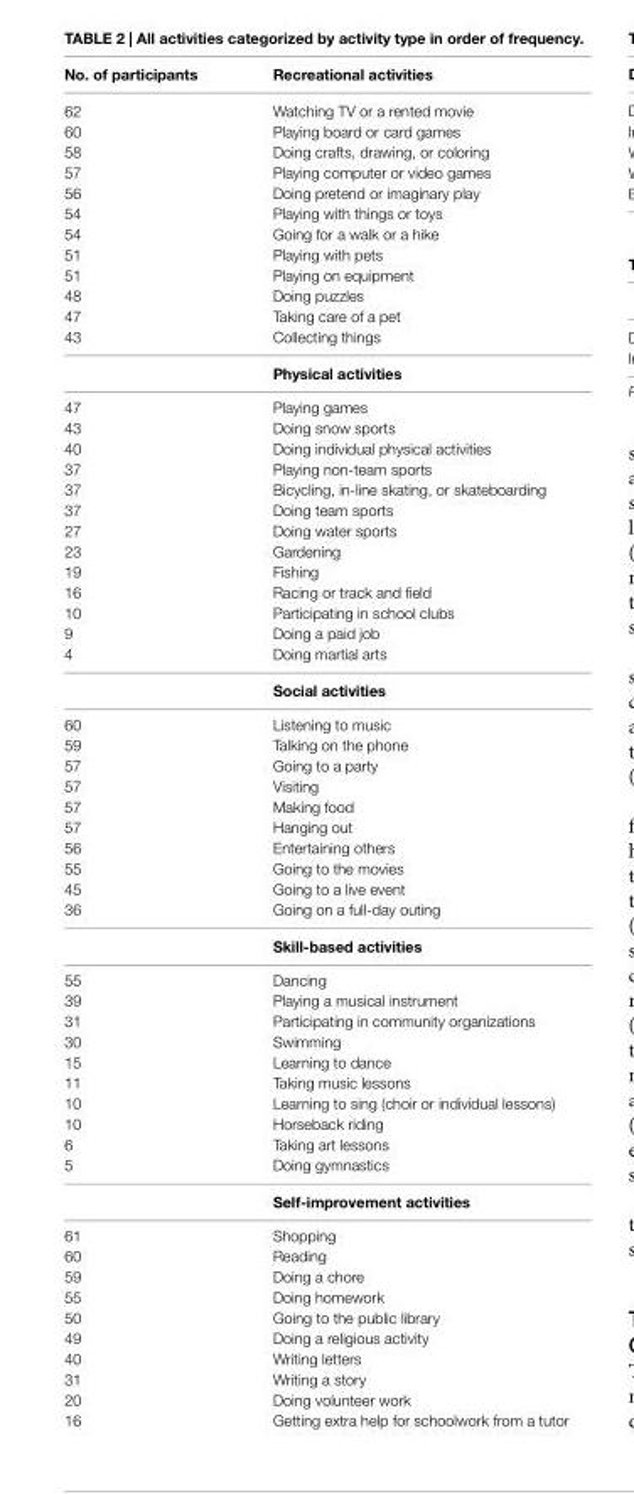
<table><thead><tr><td>no. of participants</td><td>recreational activities</td></tr></thead><tbody><tr><td>62</td><td>Watching TV or a rented movie</td></tr><tr><td>60</td><td>Playing board or card games</td></tr><tr><td>58</td><td>Doing crafts, drawing, or coloring</td></tr><tr><td>57</td><td>Playing computer or video games</td></tr><tr><td>56</td><td>Doing pretend or imaginary play</td></tr><tr><td>54</td><td>Playing with things or toys</td></tr><tr><td>54</td><td>Going for a walk or a hike</td></tr><tr><td>51</td><td>Playing with pets</td></tr><tr><td>51</td><td>Playing on equipment</td></tr><tr><td>48</td><td>Doing puzzles</td></tr><tr><td>47</td><td>Taking care of a pet</td></tr><tr><td rowspan="2">43</td><td>Collecting things</td></tr><tr><td>Physical activities</td></tr><tr><td>47</td><td>Playing games</td></tr><tr><td>43</td><td>Doing snow sports</td></tr><tr><td>40</td><td>Doing individual physical activities</td></tr><tr><td>37</td><td>Playing non-team sports</td></tr><tr><td>37</td><td>Bicycling, in-line skating, or skateboarding</td></tr><tr><td>37</td><td>Doing team sports</td></tr><tr><td>27</td><td>Doing water sports</td></tr><tr><td>23</td><td>Gardening</td></tr><tr><td>19</td><td>Fishing</td></tr><tr><td>16</td><td>Racing or track and field</td></tr><tr><td>10</td><td>Participating in school clubs</td></tr><tr><td>9</td><td>Doing a paid job</td></tr><tr><td rowspan="2">4</td><td>Doing martial arts</td></tr><tr><td>social activities</td></tr><tr><td>60</td><td>Listening to music</td></tr><tr><td>59</td><td>Talking on the phone</td></tr><tr><td>57</td><td>Going to a party</td></tr><tr><td>57</td><td>Visiting</td></tr><tr><td>57</td><td>Making food</td></tr><tr><td>57</td><td>Hanging out</td></tr><tr><td>56</td><td>Entertaining others</td></tr><tr><td>55</td><td>Going to the movies</td></tr><tr><td>45</td><td>Going to a live event</td></tr><tr><td rowspan="2">36</td><td>Going on a full-day outing</td></tr><tr><td>skill-based activities</td></tr><tr><td>55</td><td>Dancing</td></tr><tr><td>39</td><td>Playing a musical instrument</td></tr><tr><td>31</td><td>Participating in community organizations</td></tr><tr><td>30</td><td>Swimming</td></tr><tr><td>15</td><td>Learning to dance</td></tr><tr><td>11</td><td>Taking music lessons</td></tr><tr><td>10</td><td>Learning to sing (choir or individual lessons)</td></tr><tr><td>10</td><td>Horseback riding</td></tr><tr><td>6</td><td>Taking art lessons</td></tr><tr><td rowspan="2">5</td><td>Doing gymnastics</td></tr><tr><td>self-improvement activities</td></tr><tr><td>61</td><td>Shopping</td></tr><tr><td>60</td><td>Reading</td></tr><tr><td>59</td><td>Doing a chore</td></tr><tr><td>55</td><td>Doing homework</td></tr><tr><td>50</td><td>Going to the public library</td></tr><tr><td>49</td><td>Doing a religious activity</td></tr><tr><td>40</td><td>Writing letters</td></tr><tr><td>31</td><td>Writing a story</td></tr><tr><td>20</td><td>Doing volunteer work</td></tr><tr><td>16</td><td>Getting extra help for schoolwork from a tutor</td></tr></tbody></table>